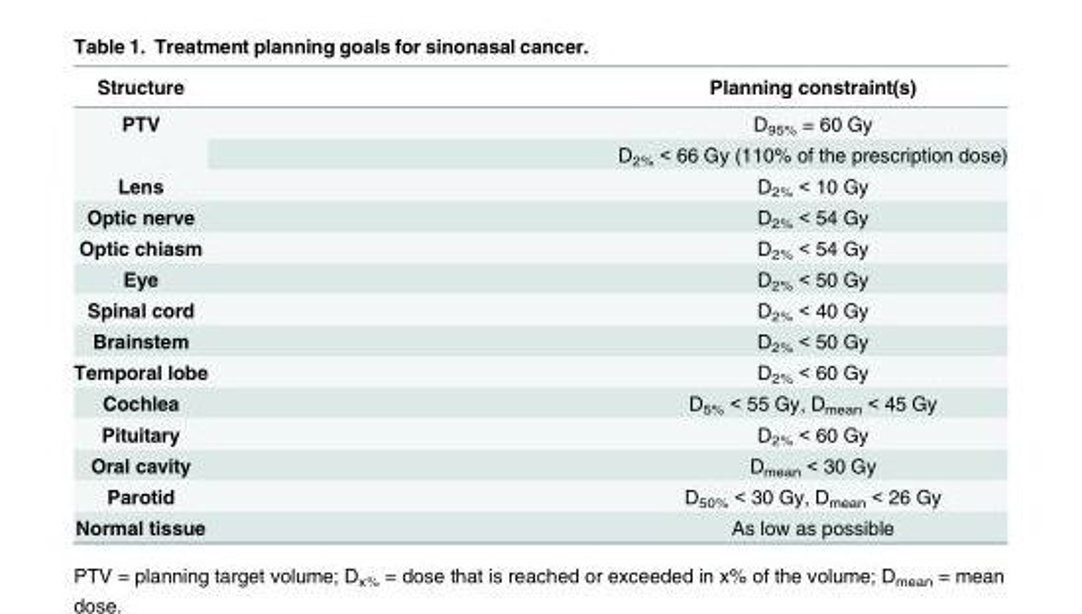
<table><thead><tr><td>Structure</td><td>Planning constraint(s)</td></tr></thead><tbody><tr><td rowspan="2">PTV</td><td>D<sub>95%</sub> = 60 Gy</td></tr><tr><td>D<sub>2%</sub> &lt; 66 Gy (110% of the prescription dose)</td></tr><tr><td>Lens</td><td>D<sub>2%</sub> &lt; 10 Gy</td></tr><tr><td>Optic nerve</td><td>D<sub>2%</sub> &lt; 54 Gy</td></tr><tr><td>Optic chiasm</td><td>D<sub>2%</sub> &lt; 54 Gy</td></tr><tr><td>Eye</td><td>D<sub>2%</sub> &lt; 50 Gy</td></tr><tr><td>Spinal cord</td><td>D<sub>2%</sub> &lt; 40 Gy</td></tr><tr><td>Brainstem</td><td>D<sub>2%</sub> &lt; 50 Gy</td></tr><tr><td>Temporal lobe</td><td>D<sub>2%</sub> &lt; 60 Gy</td></tr><tr><td>Cochlea</td><td>D<sub>5%</sub> &lt; 55 Gy, D<sub>mean</sub> &lt; 45 Gy</td></tr><tr><td>Pituitary</td><td>D<sub>2%</sub> &lt; 60 Gy</td></tr><tr><td>Oral cavity</td><td>D<sub>mean</sub> &lt; 30 Gy</td></tr><tr><td>Parotid</td><td>D<sub>50%</sub> &lt; 30 Gy, D<sub>mean</sub> &lt; 26 Gy</td></tr><tr><td>Normal tissue</td><td>As low as possible</td></tr></tbody></table>